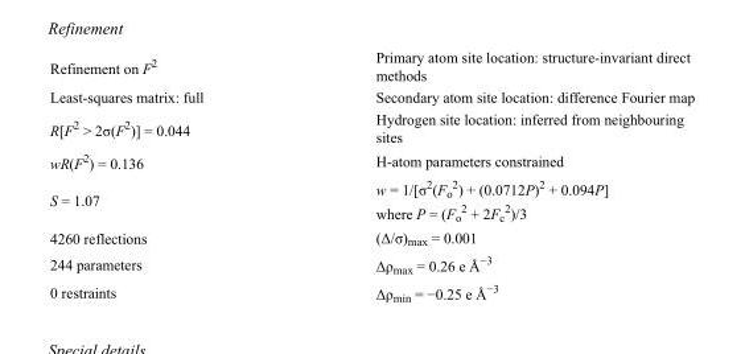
<table><tbody><tr><td>Refinement on F<sup>2</sup></td><td>Primary atom site location: structure-invariant direct methods</td></tr><tr><td>Least-squares matrix: full</td><td>Secondary atom site location: difference Fourier map</td></tr><tr><td>R[F<sup>2</sup> &gt; 2σ(F<sup>2</sup>)] = 0.044</td><td>Hydrogen site location: inferred from neighbouring sites</td></tr><tr><td>wR(F<sup>2</sup>) = 0.136</td><td>H-atom parameters constrained</td></tr><tr><td>S = 1.07</td><td>w = 1/[σ<sup>2</sup>(F<sub>o</sub> <sup>2</sup>) + (0.0712P)<sup>2</sup> + 0.094P] where P = (F<sub>o</sub> <sup>2</sup> + 2F<sub>c</sub> <sup>2</sup>)/3</td></tr><tr><td>4260 reflections</td><td>(Δ/σ)<sub>max</sub> = 0.001</td></tr><tr><td>244 parameters</td><td>Δρ<sub>max</sub> = 0.26 e Å<sup>−3</sup></td></tr><tr><td>0 restraints</td><td>Δρ<sub>min</sub> = −0.25 e Å<sup>−3</sup></td></tr></tbody></table>